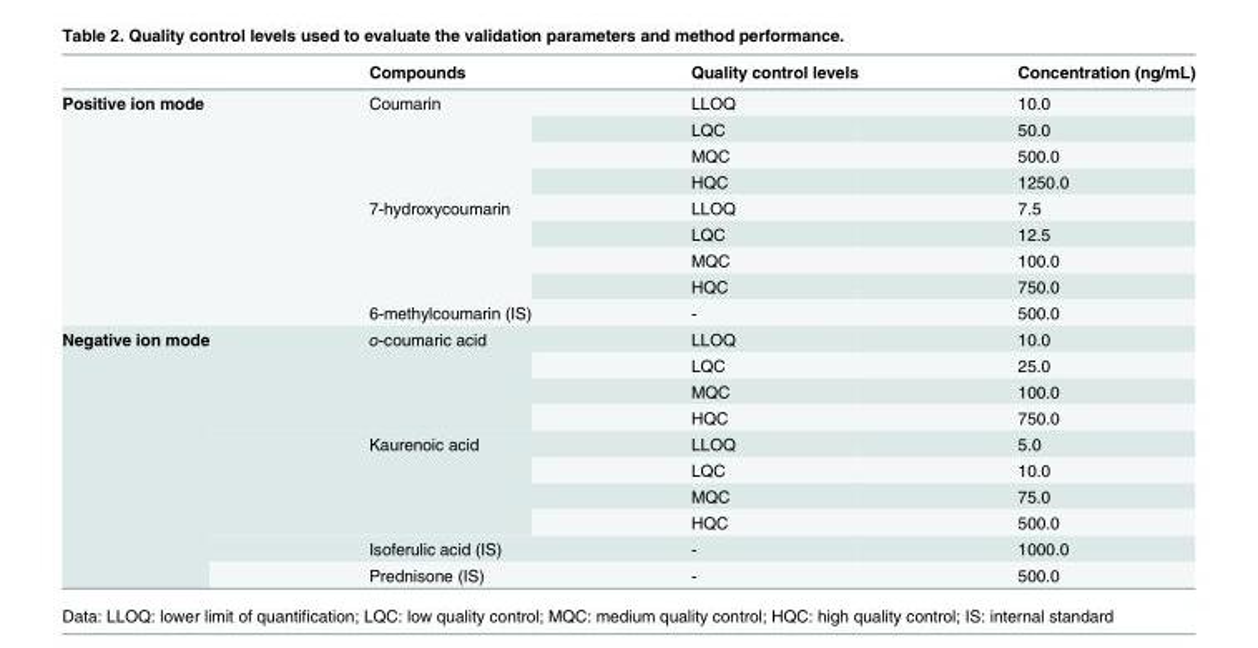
<table><thead><tr><td></td><td>Compounds</td><td>Quality control levels</td><td>Concentration (ng/mL)</td></tr></thead><tbody><tr><td rowspan="9">Positive ion mode</td><td rowspan="4">Coumarin</td><td>LLOQ</td><td>10.0</td></tr><tr><td>LQC</td><td>50.0</td></tr><tr><td>MQC</td><td>500.0</td></tr><tr><td>HQC</td><td>1250.0</td></tr><tr><td rowspan="4">7-hydroxycoumarin</td><td>LLOQ</td><td>7.5</td></tr><tr><td>LQC</td><td>12.5</td></tr><tr><td>MQC</td><td>100.0</td></tr><tr><td>HQC</td><td>750.0</td></tr><tr><td>6-methylcoumarin (IS)</td><td>-</td><td>500.0</td></tr><tr><td rowspan="10">Negative ion mode</td><td rowspan="4">o-coumaric acid</td><td>LLOQ</td><td>10.0</td></tr><tr><td>LQC</td><td>25.0</td></tr><tr><td>MQC</td><td>100.0</td></tr><tr><td>HQC</td><td>750.0</td></tr><tr><td rowspan="4">Kaurenoic acid</td><td>LLOQ</td><td>5.0</td></tr><tr><td>LQC</td><td>10.0</td></tr><tr><td>MQC</td><td>75.0</td></tr><tr><td>HQC</td><td>500.0</td></tr><tr><td>Isoferulic acid (IS)</td><td>-</td><td>1000.0</td></tr><tr><td>Prednisone (IS)</td><td>-</td><td>500.0</td></tr></tbody></table>